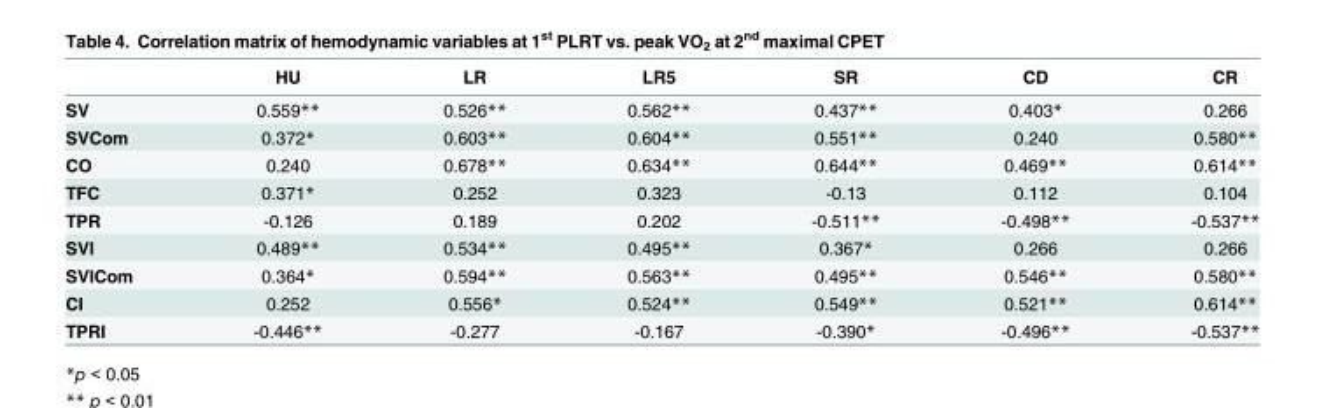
<table><thead><tr><td></td><td>HU</td><td>LR</td><td>LR5</td><td>SR</td><td>CD</td><td>CR</td></tr></thead><tbody><tr><td>SV</td><td>0.559**</td><td>0.526**</td><td>0.562**</td><td>0.437**</td><td>0.403*</td><td>0.266</td></tr><tr><td>SVCom</td><td>0.372*</td><td>0.603**</td><td>0.604**</td><td>0.551**</td><td>0.240</td><td>0.580**</td></tr><tr><td>CO</td><td>0.240</td><td>0.678**</td><td>0.634**</td><td>0.644**</td><td>0.469**</td><td>0.614**</td></tr><tr><td>TFC</td><td>0.371*</td><td>0.252</td><td>0.323</td><td>-0.13</td><td>0.112</td><td>0.104</td></tr><tr><td>TPR</td><td>-0.126</td><td>0.189</td><td>0.202</td><td>-0.511**</td><td>-0.498**</td><td>-0.537**</td></tr><tr><td>SVI</td><td>0.489**</td><td>0.534**</td><td>0.495**</td><td>0.367*</td><td>0.266</td><td>0.266</td></tr><tr><td>SVICom</td><td>0.364*</td><td>0.594**</td><td>0.563**</td><td>0.495**</td><td>0.546**</td><td>0.580**</td></tr><tr><td>CI</td><td>0.252</td><td>0.556*</td><td>0.524**</td><td>0.549**</td><td>0.521**</td><td>0.614**</td></tr><tr><td>TPRI</td><td>-0.446**</td><td>-0.277</td><td>-0.167</td><td>-0.390*</td><td>-0.496**</td><td>-0.537**</td></tr></tbody></table>